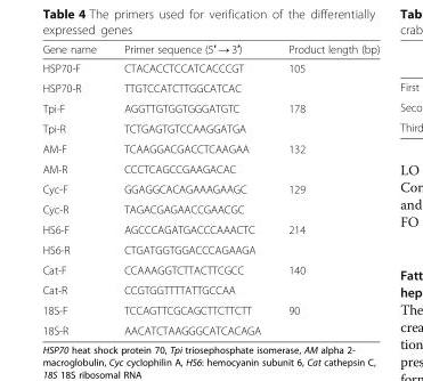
<table><thead><tr><td>Gene name</td><td>Primer sequence (5′ → 3′)</td><td>Product length (bp)</td></tr></thead><tbody><tr><td>HSP70-F</td><td>CTACACCTCCATCACCCGT</td><td rowspan="2">105</td></tr><tr><td>HSP70-R</td><td>TTGTCCATCTTGGCATCAC</td></tr><tr><td>Tpi-F</td><td>AGGTTGTGGTGGGATGTC</td><td rowspan="2">178</td></tr><tr><td>Tpi-R</td><td>TCTGAGTGTCCAAGGATGA</td></tr><tr><td>AM-F</td><td>TCAAGGACGACCTCAAGAA</td><td rowspan="2">132</td></tr><tr><td>AM-R</td><td>CCCTCAGCCGAAGACAC</td></tr><tr><td>Cyc-F</td><td>GGAGGCACAGAAAGAAGC</td><td rowspan="2">129</td></tr><tr><td>Cyc-R</td><td>TAGACGAGAACCGAACGC</td></tr><tr><td>HS6-F</td><td>AGCCCAGATGACCCAAACTC</td><td rowspan="2">214</td></tr><tr><td>HS6-R</td><td>CTGATGGTGGACCCAGAAGA</td></tr><tr><td>Cat-F</td><td>CCAAAGGTCTTACTTCGCC</td><td rowspan="2">140</td></tr><tr><td>Cat-R</td><td>CCGTGGTTTTATTGCCAA</td></tr><tr><td>18S-F</td><td>TCCAGTTCGCAGCTTCTTCTT</td><td rowspan="2">90</td></tr><tr><td>18S-R</td><td>AACATCTAAGGGCATCACAGA</td></tr></tbody></table>